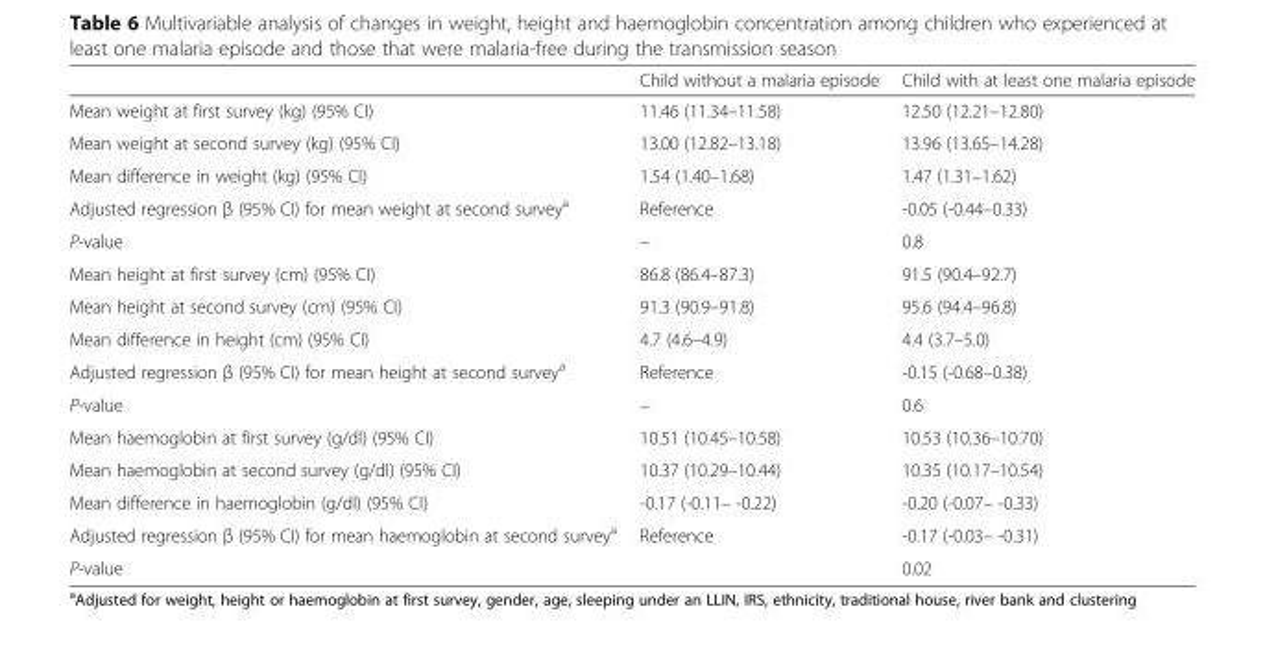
<table><thead><tr><td></td><td>Child without a malaria episode</td><td>Child with at least one malaria episode</td></tr></thead><tbody><tr><td>Mean weight at first survey (kg) (95% CI)</td><td>11.46 (11.34–11.58)</td><td>12.50 (12.21–12.80)</td></tr><tr><td>Mean weight at second survey (kg) (95% CI)</td><td>13.00 (12.82–13.18)</td><td>13.96 (13.65–14.28)</td></tr><tr><td>Mean difference in weight (kg) (95% CI)</td><td>1.54 (1.40–1.68)</td><td>1.47 (1.31–1.62)</td></tr><tr><td>Adjusted regression β (95% CI) for mean weight at second survey<sup>a</sup></td><td>Reference</td><td>-0.05 (-0.44–0.33)</td></tr><tr><td>P-value</td><td>–</td><td>0.8</td></tr><tr><td>Mean height at first survey (cm) (95% CI)</td><td>86.8 (86.4–87.3)</td><td>91.5 (90.4–92.7)</td></tr><tr><td>Mean height at second survey (cm) (95% CI)</td><td>91.3 (90.9–91.8)</td><td>95.6 (94.4–96.8)</td></tr><tr><td>Mean difference in height (cm) (95% CI)</td><td>4.7 (4.6–4.9)</td><td>4.4 (3.7–5.0)</td></tr><tr><td>Adjusted regression β (95% CI) for mean height at second survey<sup>a</sup></td><td>Reference</td><td>-0.15 (-0.68–0.38)</td></tr><tr><td>P-value</td><td>–</td><td>0.6</td></tr><tr><td>Mean haemoglobin at first survey (g/dl) (95% CI)</td><td>10.51 (10.45–10.58)</td><td>10.53 (10.36–10.70)</td></tr><tr><td>Mean haemoglobin at second survey (g/dl) (95% CI)</td><td>10.37 (10.29–10.44)</td><td>10.35 (10.17–10.54)</td></tr><tr><td>Mean difference in haemoglobin (g/dl) (95% CI)</td><td>-0.17 (-0.11– -0.22)</td><td>-0.20 (-0.07– -0.33)</td></tr><tr><td>Adjusted regression β (95% CI) for mean haemoglobin at second survey<sup>a</sup></td><td>Reference</td><td>-0.17 (-0.03– -0.31)</td></tr><tr><td>P-value</td><td></td><td>0.02</td></tr></tbody></table>